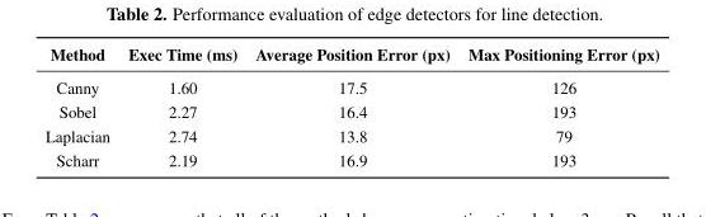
<table><thead><tr><td>Method</td><td>Exec Time (ms)</td><td>Average Position Error (px)</td><td>Max Positioning Error (px)</td></tr></thead><tbody><tr><td>Canny</td><td>1.60</td><td>17.5</td><td>126</td></tr><tr><td>Sobel</td><td>2.27</td><td>16.4</td><td>193</td></tr><tr><td>Laplacian</td><td>2.74</td><td>13.8</td><td>79</td></tr><tr><td>Scharr</td><td>2.19</td><td>16.9</td><td>193</td></tr></tbody></table>